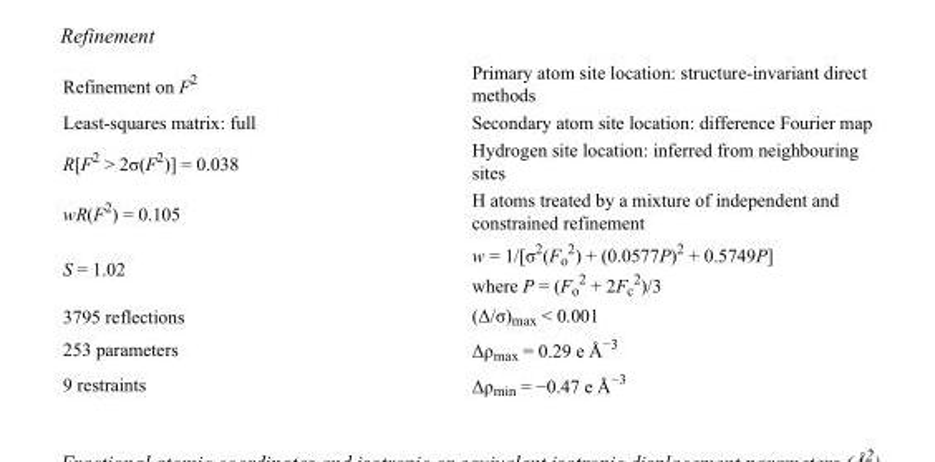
<table><tbody><tr><td>Refinement on F<sup>2</sup></td><td>Primary atom site location: structure-invariant direct methods</td></tr><tr><td>Least-squares matrix: full</td><td>Secondary atom site location: difference Fourier map</td></tr><tr><td>R[F<sup>2</sup> &gt; 2σ(F<sup>2</sup>)] = 0.038</td><td>Hydrogen site location: inferred from neighbouring sites</td></tr><tr><td>wR(F<sup>2</sup>) = 0.105</td><td>H atoms treated by a mixture of independent and constrained refinement</td></tr><tr><td>S = 1.02</td><td>w = 1/[σ<sup>2</sup>(F<sub>o</sub> <sup>2</sup>) + (0.0577P)<sup>2</sup> + 0.5749P] where P = (F<sub>o</sub> <sup>2</sup> + 2F<sub>c</sub> <sup>2</sup>)/3</td></tr><tr><td>3795 reflections</td><td>(Δ/σ)<sub>max</sub> &lt; 0.001</td></tr><tr><td>253 parameters</td><td>Δρ<sub>max</sub> = 0.29 e Å<sup>−3</sup></td></tr><tr><td>9 restraints</td><td>Δρ<sub>min</sub> = −0.47 e Å<sup>−3</sup></td></tr></tbody></table>